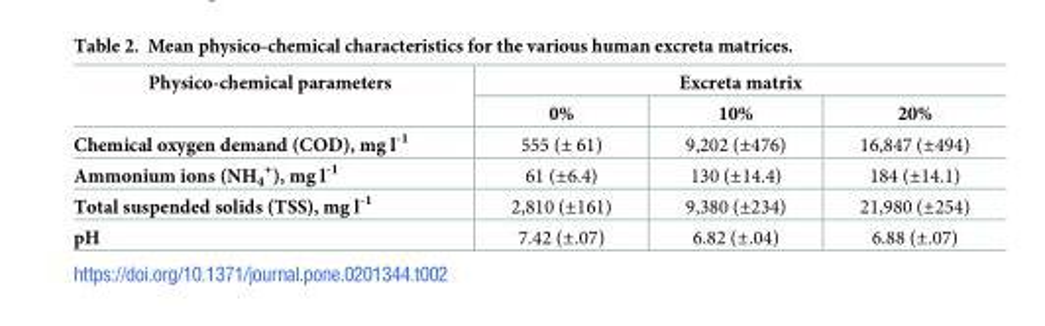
<table><thead><tr><td rowspan="2">Physico-chemical parameters</td><td colspan="3">Excreta matrix</td></tr><tr><td>0%</td><td>10%</td><td>20%</td></tr></thead><tbody><tr><td>Chemical oxygen demand (COD), mg l<sup>-1</sup></td><td>555 (± 61)</td><td>9,202 (±476)</td><td>16,847 (±494)</td></tr><tr><td>Ammonium ions (NH<sub>4</sub> <sup>+</sup>), mg l<sup>-1</sup></td><td>61 (±6.4)</td><td>130 (±14.4)</td><td>184 (±14.1)</td></tr><tr><td>Total suspended solids (TSS), mg l<sup>-1</sup></td><td>2,810 (±161)</td><td>9,380 (±234)</td><td>21,980 (±254)</td></tr><tr><td>pH</td><td>7.42 (±.07)</td><td>6.82 (±.04)</td><td>6.88 (±.07)</td></tr></tbody></table>